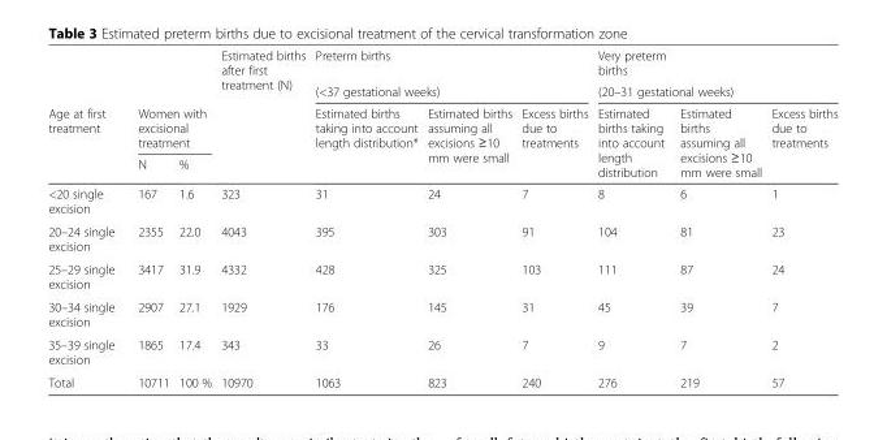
<table><thead><tr><td rowspan="4">Age at first treatment</td><td rowspan="2"></td><td rowspan="2"></td><td rowspan="4">Estimated births after first treatment (N)</td><td>Preterm births</td><td></td><td></td><td>Very preterm births</td><td></td><td></td></tr><tr><td colspan="3">(&lt;37 gestational weeks)</td><td colspan="3">(20–31 gestational weeks)</td></tr><tr><td colspan="2">Women with excisional treatment</td><td rowspan="2">Estimated births taking into account length distribution*</td><td rowspan="2">Estimated births assuming all excisions ≥10 mm were small</td><td rowspan="2">Excess births due to treatments</td><td rowspan="2">Estimated births taking into account length distribution</td><td rowspan="2">Estimated births assuming all excisions ≥10 mm were small</td><td rowspan="2">Excess births due to treatments</td></tr><tr><td>N</td><td>%</td></tr></thead><tbody><tr><td>&lt;20 single excision</td><td>167</td><td>1.6</td><td>323</td><td>31</td><td>24</td><td>7</td><td>8</td><td>6</td><td>1</td></tr><tr><td>20–24 single excision</td><td>2355</td><td>22.0</td><td>4043</td><td>395</td><td>303</td><td>91</td><td>104</td><td>81</td><td>23</td></tr><tr><td>25–29 single excision</td><td>3417</td><td>31.9</td><td>4332</td><td>428</td><td>325</td><td>103</td><td>111</td><td>87</td><td>24</td></tr><tr><td>30–34 single excision</td><td>2907</td><td>27.1</td><td>1929</td><td>176</td><td>145</td><td>31</td><td>45</td><td>39</td><td>7</td></tr><tr><td>35–39 single excision</td><td>1865</td><td>17.4</td><td>343</td><td>33</td><td>26</td><td>7</td><td>9</td><td>7</td><td>2</td></tr><tr><td>Total</td><td>10711</td><td>100 %</td><td>10970</td><td>1063</td><td>823</td><td>240</td><td>276</td><td>219</td><td>57</td></tr></tbody></table>